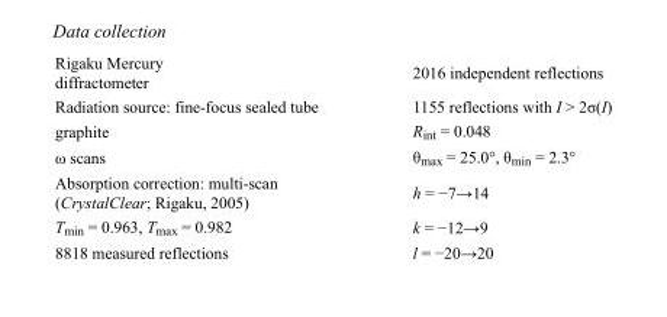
<table><tbody><tr><td>Rigaku Mercury diffractometer</td><td>2016 independent reflections</td></tr><tr><td>Radiation source: fine-focus sealed tube</td><td>1155 reflections with I &gt; 2σ(I)</td></tr><tr><td>graphite</td><td>R<sub>int</sub> = 0.048</td></tr><tr><td>ω scans</td><td>θ<sub>max</sub> = 25.0°, θ<sub>min</sub> = 2.3°</td></tr><tr><td>Absorption correction: multi-scan (CrystalClear; Rigaku, 2005)</td><td>h = −7→14</td></tr><tr><td>T<sub>min</sub> = 0.963, T<sub>max</sub> = 0.982</td><td>k = −12→9</td></tr><tr><td>8818 measured reflections</td><td>l = −20→20</td></tr></tbody></table>